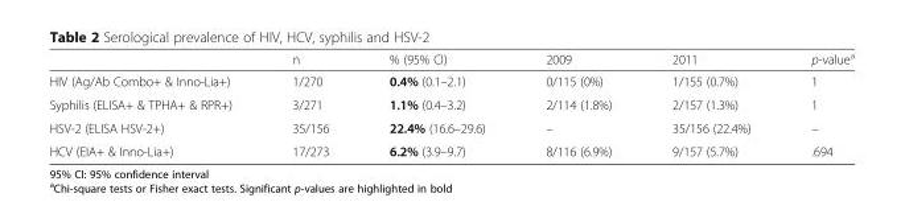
<table><thead><tr><td></td><td>n</td><td>% (95% CI)</td><td>2009</td><td>2011</td><td>p-value<sup>a</sup></td></tr></thead><tbody><tr><td>HIV (Ag/Ab Combo+ &amp; Inno-Lia+)</td><td>1/270</td><td>0.4% (0.1–2.1)</td><td>0/115 (0%)</td><td>1/155 (0.7%)</td><td>1</td></tr><tr><td>Syphilis (ELISA+ &amp; TPHA+ &amp; RPR+)</td><td>3/271</td><td>1.1% (0.4–3.2)</td><td>2/114 (1.8%)</td><td>2/157 (1.3%)</td><td>1</td></tr><tr><td>HSV-2 (ELISA HSV-2+)</td><td>35/156</td><td>22.4% (16.6–29.6)</td><td>–</td><td>35/156 (22.4%)</td><td>–</td></tr><tr><td>HCV (EIA+ &amp; Inno-Lia+)</td><td>17/273</td><td>6.2% (3.9–9.7)</td><td>8/116 (6.9%)</td><td>9/157 (5.7%)</td><td>.694</td></tr></tbody></table>